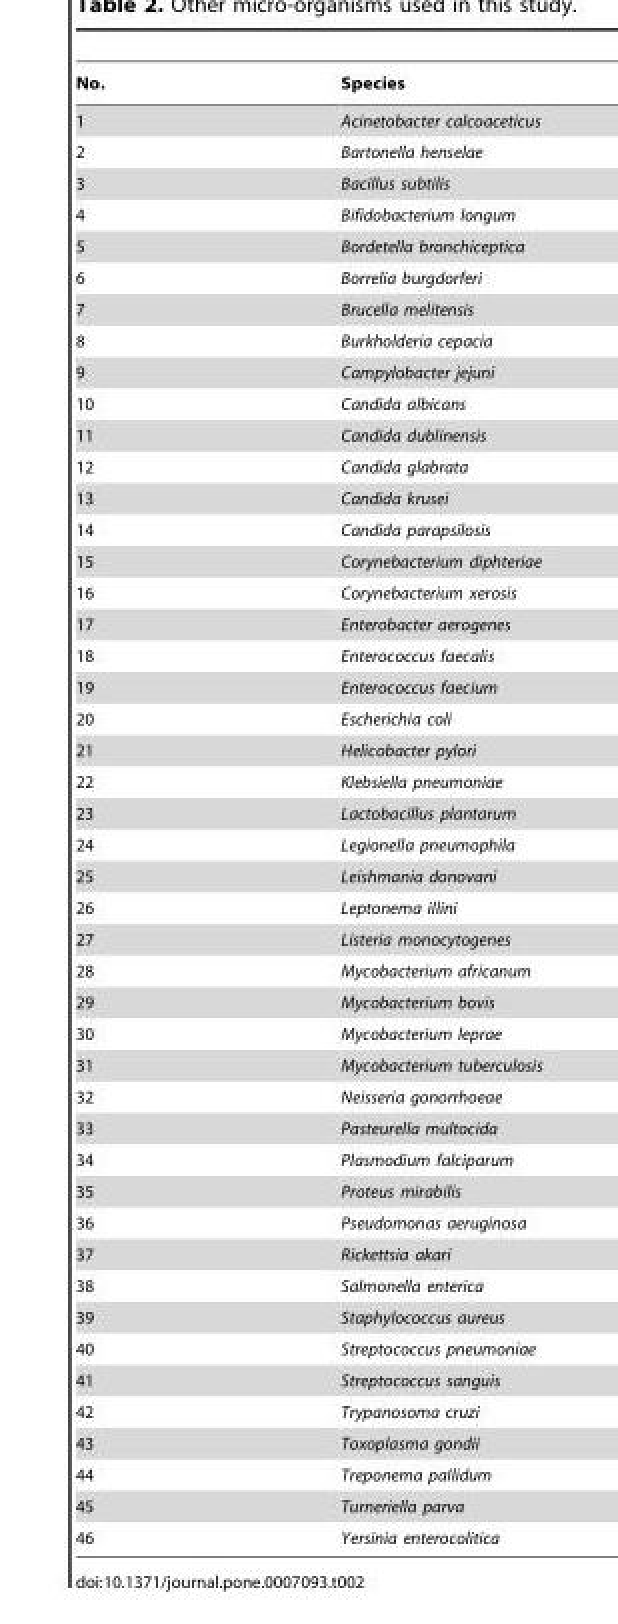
<table><thead><tr><td>No.</td><td>Species</td></tr></thead><tbody><tr><td>1</td><td>Acinetobacter calcoaceticus</td></tr><tr><td>2</td><td>Bartonella henselae</td></tr><tr><td>3</td><td>Bacillus subtilis</td></tr><tr><td>4</td><td>Bifidobacterium longum</td></tr><tr><td>5</td><td>Bordetella bronchiceptica</td></tr><tr><td>6</td><td>Borrelia burgdorferi</td></tr><tr><td>7</td><td>Brucella melitensis</td></tr><tr><td>8</td><td>Burkholderia cepacia</td></tr><tr><td>9</td><td>Campylobacter jejuni</td></tr><tr><td>10</td><td>Candida albicans</td></tr><tr><td>11</td><td>Candida dublinensis</td></tr><tr><td>12</td><td>Candida glabrata</td></tr><tr><td>13</td><td>Candida krusei</td></tr><tr><td>14</td><td>Candida parapsilosis</td></tr><tr><td>15</td><td>Corynebacterium diphteriae</td></tr><tr><td>16</td><td>Corynebacterium xerosis</td></tr><tr><td>17</td><td>Enterobacter aerogenes</td></tr><tr><td>18</td><td>Enterococcus faecalis</td></tr><tr><td>19</td><td>Enterococcus faecium</td></tr><tr><td>20</td><td>Escherichia coli</td></tr><tr><td>21</td><td>Helicobacter pylori</td></tr><tr><td>22</td><td>Klebsiella pneumoniae</td></tr><tr><td>23</td><td>Lactobacillus plantarum</td></tr><tr><td>24</td><td>Legionella pneumophila</td></tr><tr><td>25</td><td>Leishmania donovani</td></tr><tr><td>26</td><td>Leptonema illini</td></tr><tr><td>27</td><td>Listeria monocytogenes</td></tr><tr><td>28</td><td>Mycobacterium africanum</td></tr><tr><td>29</td><td>Mycobacterium bovis</td></tr><tr><td>30</td><td>Mycobacterium leprae</td></tr><tr><td>31</td><td>Mycobacterium tuberculosis</td></tr><tr><td>32</td><td>Neisseria gonorrhoeae</td></tr><tr><td>33</td><td>Pasteurella multocida</td></tr><tr><td>34</td><td>Plasmodium falciparum</td></tr><tr><td>35</td><td>Proteus mirabilis</td></tr><tr><td>36</td><td>Pseudomonas aeruginosa</td></tr><tr><td>37</td><td>Rickettsia akari</td></tr><tr><td>38</td><td>Salmonella enterica</td></tr><tr><td>39</td><td>Staphylococcus aureus</td></tr><tr><td>40</td><td>Streptococcus pneumoniae</td></tr><tr><td>41</td><td>Streptococcus sanguis</td></tr><tr><td>42</td><td>Trypanosoma cruzi</td></tr><tr><td>43</td><td>Toxoplasma gondii</td></tr><tr><td>44</td><td>Treponema pallidum</td></tr><tr><td>45</td><td>Turneriella parva</td></tr><tr><td>46</td><td>Yersinia enterocolitica</td></tr></tbody></table>